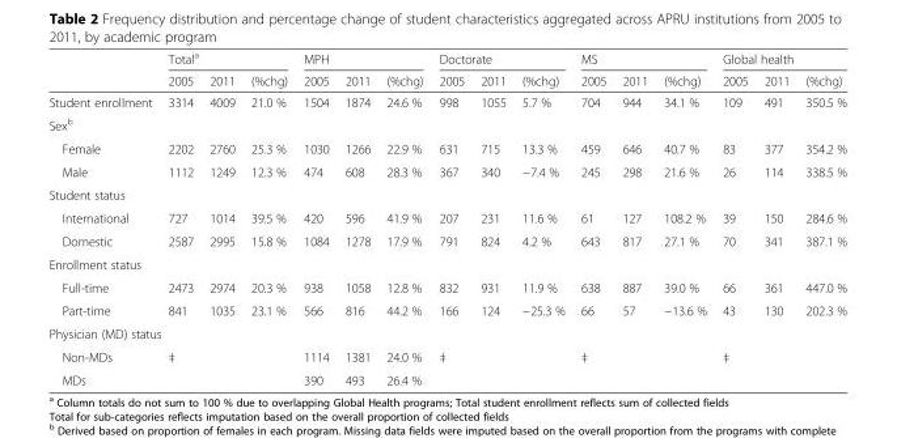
<table><thead><tr><td rowspan="2"></td><td colspan="3">Total<sup>a</sup></td><td colspan="3">MPH</td><td colspan="3">Doctorate</td><td colspan="3">MS</td><td colspan="3">Global health</td></tr><tr><td>2005</td><td>2011</td><td>(%chg)</td><td>2005</td><td>2011</td><td>(%chg)</td><td>2005</td><td>2011</td><td>(%chg)</td><td>2005</td><td>2011</td><td>(%chg)</td><td>2005</td><td>2011</td><td>(%chg)</td></tr></thead><tbody><tr><td>Student enrollment</td><td>3314</td><td>4009</td><td>21.0 %</td><td>1504</td><td>1874</td><td>24.6 %</td><td>998</td><td>1055</td><td>5.7 %</td><td>704</td><td>944</td><td>34.1 %</td><td>109</td><td>491</td><td>350.5 %</td></tr><tr><td colspan="16">Sex<sup>b</sup></td></tr><tr><td>Female</td><td>2202</td><td>2760</td><td>25.3 %</td><td>1030</td><td>1266</td><td>22.9 %</td><td>631</td><td>715</td><td>13.3 %</td><td>459</td><td>646</td><td>40.7 %</td><td>83</td><td>377</td><td>354.2 %</td></tr><tr><td>Male</td><td>1112</td><td>1249</td><td>12.3 %</td><td>474</td><td>608</td><td>28.3 %</td><td>367</td><td>340</td><td>−7.4 %</td><td>245</td><td>298</td><td>21.6 %</td><td>26</td><td>114</td><td>338.5 %</td></tr><tr><td colspan="16">Student status</td></tr><tr><td>International</td><td>727</td><td>1014</td><td>39.5 %</td><td>420</td><td>596</td><td>41.9 %</td><td>207</td><td>231</td><td>11.6 %</td><td>61</td><td>127</td><td>108.2 %</td><td>39</td><td>150</td><td>284.6 %</td></tr><tr><td>Domestic</td><td>2587</td><td>2995</td><td>15.8 %</td><td>1084</td><td>1278</td><td>17.9 %</td><td>791</td><td>824</td><td>4.2 %</td><td>643</td><td>817</td><td>27.1 %</td><td>70</td><td>341</td><td>387.1 %</td></tr><tr><td colspan="16">Enrollment status</td></tr><tr><td>Full-time</td><td>2473</td><td>2974</td><td>20.3 %</td><td>938</td><td>1058</td><td>12.8 %</td><td>832</td><td>931</td><td>11.9 %</td><td>638</td><td>887</td><td>39.0 %</td><td>66</td><td>361</td><td>447.0 %</td></tr><tr><td>Part-time</td><td>841</td><td>1035</td><td>23.1 %</td><td>566</td><td>816</td><td>44.2 %</td><td>166</td><td>124</td><td>−25.3 %</td><td>66</td><td>57</td><td>−13.6 %</td><td>43</td><td>130</td><td>202.3 %</td></tr><tr><td colspan="16">Physician (MD) status</td></tr><tr><td>Non-MDs</td><td rowspan="2" colspan="3">‡</td><td>1114</td><td>1381</td><td>24.0 %</td><td rowspan="2" colspan="3">‡</td><td rowspan="2" colspan="3">‡</td><td rowspan="2" colspan="3">‡</td></tr><tr><td>MDs</td><td>390</td><td>493</td><td>26.4 %</td></tr></tbody></table>